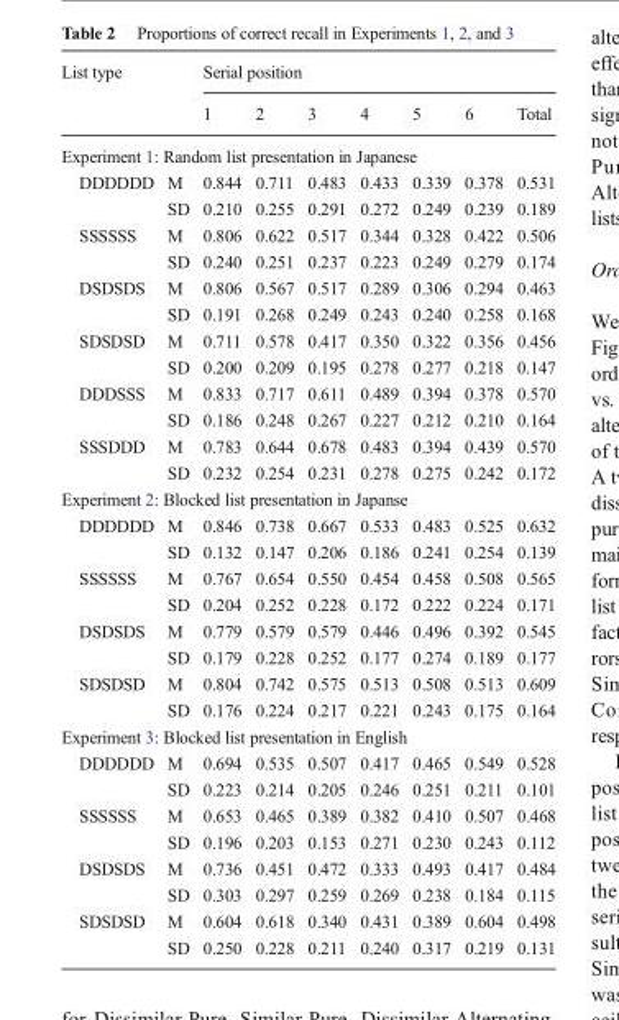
<table><thead><tr><td rowspan="2">List type</td><td rowspan="2"></td><td colspan="7">Serial position</td></tr><tr><td>1</td><td>2</td><td>3</td><td>4</td><td>5</td><td>6</td><td>Total</td></tr></thead><tbody><tr><td colspan="9">Experiment 1: Random list presentation in Japanese</td></tr><tr><td rowspan="2">DDDDDD</td><td>M</td><td>0.844</td><td>0.711</td><td>0.483</td><td>0.433</td><td>0.339</td><td>0.378</td><td>0.531</td></tr><tr><td>SD</td><td>0.210</td><td>0.255</td><td>0.291</td><td>0.272</td><td>0.249</td><td>0.239</td><td>0.189</td></tr><tr><td rowspan="2">SSSSSS</td><td>M</td><td>0.806</td><td>0.622</td><td>0.517</td><td>0.344</td><td>0.328</td><td>0.422</td><td>0.506</td></tr><tr><td>SD</td><td>0.240</td><td>0.251</td><td>0.237</td><td>0.223</td><td>0.249</td><td>0.279</td><td>0.174</td></tr><tr><td rowspan="2">DSDSDS</td><td>M</td><td>0.806</td><td>0.567</td><td>0.517</td><td>0.289</td><td>0.306</td><td>0.294</td><td>0.463</td></tr><tr><td>SD</td><td>0.191</td><td>0.268</td><td>0.249</td><td>0.243</td><td>0.240</td><td>0.258</td><td>0.168</td></tr><tr><td rowspan="2">SDSDSD</td><td>M</td><td>0.711</td><td>0.578</td><td>0.417</td><td>0.350</td><td>0.322</td><td>0.356</td><td>0.456</td></tr><tr><td>SD</td><td>0.200</td><td>0.209</td><td>0.195</td><td>0.278</td><td>0.277</td><td>0.218</td><td>0.147</td></tr><tr><td rowspan="2">DDDSSS</td><td>M</td><td>0.833</td><td>0.717</td><td>0.611</td><td>0.489</td><td>0.394</td><td>0.378</td><td>0.570</td></tr><tr><td>SD</td><td>0.186</td><td>0.248</td><td>0.267</td><td>0.227</td><td>0.212</td><td>0.210</td><td>0.164</td></tr><tr><td rowspan="2">SSSDDD</td><td>M</td><td>0.783</td><td>0.644</td><td>0.678</td><td>0.483</td><td>0.394</td><td>0.439</td><td>0.570</td></tr><tr><td>SD</td><td>0.232</td><td>0.254</td><td>0.231</td><td>0.278</td><td>0.275</td><td>0.242</td><td>0.172</td></tr><tr><td colspan="9">Experiment 2: Blocked list presentation in Japanse</td></tr><tr><td rowspan="2">DDDDDD</td><td>M</td><td>0.846</td><td>0.738</td><td>0.667</td><td>0.533</td><td>0.483</td><td>0.525</td><td>0.632</td></tr><tr><td>SD</td><td>0.132</td><td>0.147</td><td>0.206</td><td>0.186</td><td>0.241</td><td>0.254</td><td>0.139</td></tr><tr><td rowspan="2">SSSSSS</td><td>M</td><td>0.767</td><td>0.654</td><td>0.550</td><td>0.454</td><td>0.458</td><td>0.508</td><td>0.565</td></tr><tr><td>SD</td><td>0.204</td><td>0.252</td><td>0.228</td><td>0.172</td><td>0.222</td><td>0.224</td><td>0.171</td></tr><tr><td rowspan="2">DSDSDS</td><td>M</td><td>0.779</td><td>0.579</td><td>0.579</td><td>0.446</td><td>0.496</td><td>0.392</td><td>0.545</td></tr><tr><td>SD</td><td>0.179</td><td>0.228</td><td>0.252</td><td>0.177</td><td>0.274</td><td>0.189</td><td>0.177</td></tr><tr><td rowspan="2">SDSDSD</td><td>M</td><td>0.804</td><td>0.742</td><td>0.575</td><td>0.513</td><td>0.508</td><td>0.513</td><td>0.609</td></tr><tr><td>SD</td><td>0.176</td><td>0.224</td><td>0.217</td><td>0.221</td><td>0.243</td><td>0.175</td><td>0.164</td></tr><tr><td colspan="9">Experiment 3: Blocked list presentation in English</td></tr><tr><td rowspan="2">DDDDDD</td><td>M</td><td>0.694</td><td>0.535</td><td>0.507</td><td>0.417</td><td>0.465</td><td>0.549</td><td>0.528</td></tr><tr><td>SD</td><td>0.223</td><td>0.214</td><td>0.205</td><td>0.246</td><td>0.251</td><td>0.211</td><td>0.101</td></tr><tr><td rowspan="2">SSSSSS</td><td>M</td><td>0.653</td><td>0.465</td><td>0.389</td><td>0.382</td><td>0.410</td><td>0.507</td><td>0.468</td></tr><tr><td>SD</td><td>0.196</td><td>0.203</td><td>0.153</td><td>0.271</td><td>0.230</td><td>0.243</td><td>0.112</td></tr><tr><td rowspan="2">DSDSDS</td><td>M</td><td>0.736</td><td>0.451</td><td>0.472</td><td>0.333</td><td>0.493</td><td>0.417</td><td>0.484</td></tr><tr><td>SD</td><td>0.303</td><td>0.297</td><td>0.259</td><td>0.269</td><td>0.238</td><td>0.184</td><td>0.115</td></tr><tr><td rowspan="2">SDSDSD</td><td>M</td><td>0.604</td><td>0.618</td><td>0.340</td><td>0.431</td><td>0.389</td><td>0.604</td><td>0.498</td></tr><tr><td>SD</td><td>0.250</td><td>0.228</td><td>0.211</td><td>0.240</td><td>0.317</td><td>0.219</td><td>0.131</td></tr></tbody></table>